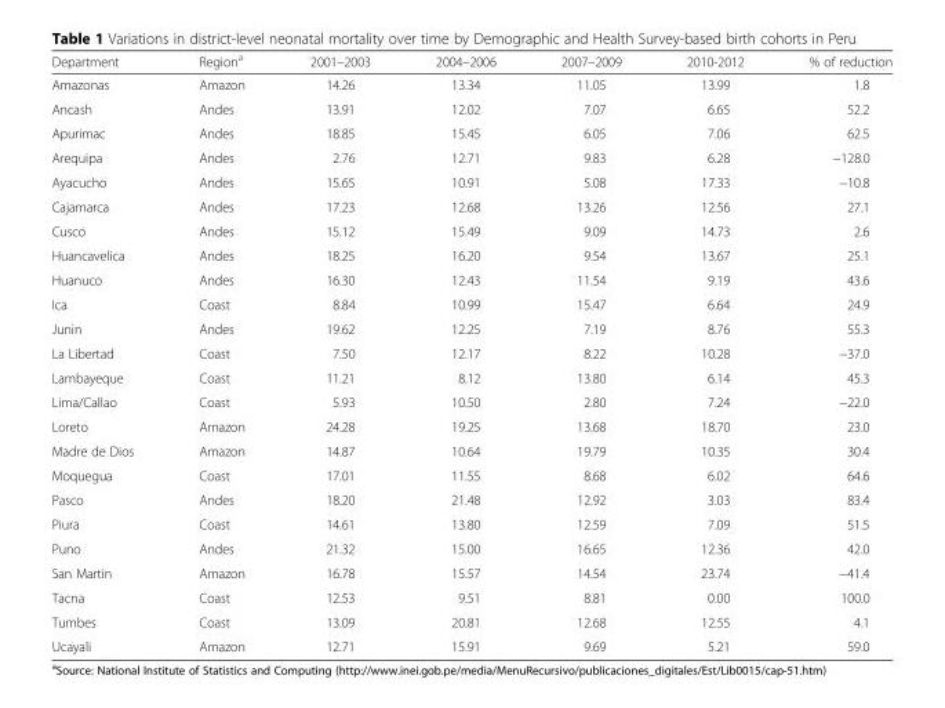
<table><thead><tr><td>Department</td><td>Region<sup>a</sup></td><td>2001–2003</td><td>2004–2006</td><td>2007–2009</td><td>2010-2012</td><td>% of reduction</td></tr></thead><tbody><tr><td>Amazonas</td><td>Amazon</td><td>14.26</td><td>13.34</td><td>11.05</td><td>13.99</td><td>1.8</td></tr><tr><td>Ancash</td><td>Andes</td><td>13.91</td><td>12.02</td><td>7.07</td><td>6.65</td><td>52.2</td></tr><tr><td>Apurimac</td><td>Andes</td><td>18.85</td><td>15.45</td><td>6.05</td><td>7.06</td><td>62.5</td></tr><tr><td>Arequipa</td><td>Andes</td><td>2.76</td><td>12.71</td><td>9.83</td><td>6.28</td><td>−128.0</td></tr><tr><td>Ayacucho</td><td>Andes</td><td>15.65</td><td>10.91</td><td>5.08</td><td>17.33</td><td>−10.8</td></tr><tr><td>Cajamarca</td><td>Andes</td><td>17.23</td><td>12.68</td><td>13.26</td><td>12.56</td><td>27.1</td></tr><tr><td>Cusco</td><td>Andes</td><td>15.12</td><td>15.49</td><td>9.09</td><td>14.73</td><td>2.6</td></tr><tr><td>Huancavelica</td><td>Andes</td><td>18.25</td><td>16.20</td><td>9.54</td><td>13.67</td><td>25.1</td></tr><tr><td>Huanuco</td><td>Andes</td><td>16.30</td><td>12.43</td><td>11.54</td><td>9.19</td><td>43.6</td></tr><tr><td>Ica</td><td>Coast</td><td>8.84</td><td>10.99</td><td>15.47</td><td>6.64</td><td>24.9</td></tr><tr><td>Junin</td><td>Andes</td><td>19.62</td><td>12.25</td><td>7.19</td><td>8.76</td><td>55.3</td></tr><tr><td>La Libertad</td><td>Coast</td><td>7.50</td><td>12.17</td><td>8.22</td><td>10.28</td><td>−37.0</td></tr><tr><td>Lambayeque</td><td>Coast</td><td>11.21</td><td>8.12</td><td>13.80</td><td>6.14</td><td>45.3</td></tr><tr><td>Lima/Callao</td><td>Coast</td><td>5.93</td><td>10.50</td><td>2.80</td><td>7.24</td><td>−22.0</td></tr><tr><td>Loreto</td><td>Amazon</td><td>24.28</td><td>19.25</td><td>13.68</td><td>18.70</td><td>23.0</td></tr><tr><td>Madre de Dios</td><td>Amazon</td><td>14.87</td><td>10.64</td><td>19.79</td><td>10.35</td><td>30.4</td></tr><tr><td>Moquegua</td><td>Coast</td><td>17.01</td><td>11.55</td><td>8.68</td><td>6.02</td><td>64.6</td></tr><tr><td>Pasco</td><td>Andes</td><td>18.20</td><td>21.48</td><td>12.92</td><td>3.03</td><td>83.4</td></tr><tr><td>Piura</td><td>Coast</td><td>14.61</td><td>13.80</td><td>12.59</td><td>7.09</td><td>51.5</td></tr><tr><td>Puno</td><td>Andes</td><td>21.32</td><td>15.00</td><td>16.65</td><td>12.36</td><td>42.0</td></tr><tr><td>San Martin</td><td>Amazon</td><td>16.78</td><td>15.57</td><td>14.54</td><td>23.74</td><td>−41.4</td></tr><tr><td>Tacna</td><td>Coast</td><td>12.53</td><td>9.51</td><td>8.81</td><td>0.00</td><td>100.0</td></tr><tr><td>Tumbes</td><td>Coast</td><td>13.09</td><td>20.81</td><td>12.68</td><td>12.55</td><td>4.1</td></tr><tr><td>Ucayali</td><td>Amazon</td><td>12.71</td><td>15.91</td><td>9.69</td><td>5.21</td><td>59.0</td></tr></tbody></table>